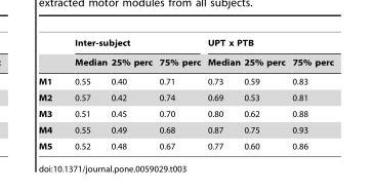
<table><thead><tr><td rowspan="2"></td><td colspan="3">Inter-subject</td><td colspan="3">UPT x PTB</td></tr><tr><td>Median</td><td>25% perc</td><td>75% perc</td><td>Median</td><td>25% perc</td><td>75% perc</td></tr></thead><tbody><tr><td>M1</td><td>0.55</td><td>0.40</td><td>0.71</td><td>0.73</td><td>0.59</td><td>0.83</td></tr><tr><td>M2</td><td>0.57</td><td>0.42</td><td>0.74</td><td>0.69</td><td>0.53</td><td>0.81</td></tr><tr><td>M3</td><td>0.51</td><td>0.45</td><td>0.70</td><td>0.80</td><td>0.62</td><td>0.88</td></tr><tr><td>M4</td><td>0.55</td><td>0.49</td><td>0.68</td><td>0.87</td><td>0.75</td><td>0.93</td></tr><tr><td>M5</td><td>0.52</td><td>0.48</td><td>0.67</td><td>0.77</td><td>0.60</td><td>0.86</td></tr></tbody></table>